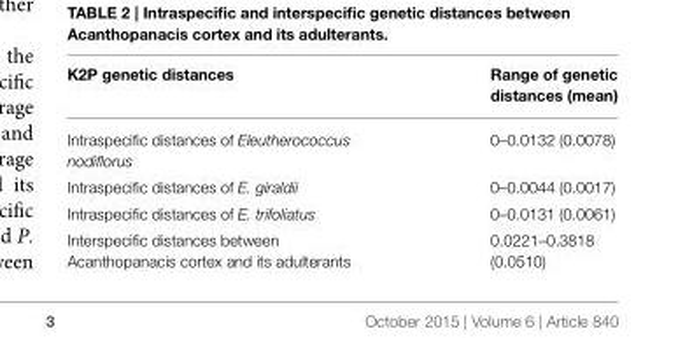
<table><thead><tr><td>K2P genetic distances</td><td>Range of genetic distances (mean)</td></tr></thead><tbody><tr><td>Intraspecific distances of Eleutherococcus nodiflorus</td><td>0–0.0132 (0.0078)</td></tr><tr><td>Intraspecific distances of E. giraldii</td><td>0–0.0044 (0.0017)</td></tr><tr><td>Intraspecific distances of E. trifoliatus</td><td>0–0.0131 (0.0061)</td></tr><tr><td>Interspecific distances between Acanthopanacis cortex and its adulterants</td><td>0.0221–0.3818 (0.0510)</td></tr></tbody></table>